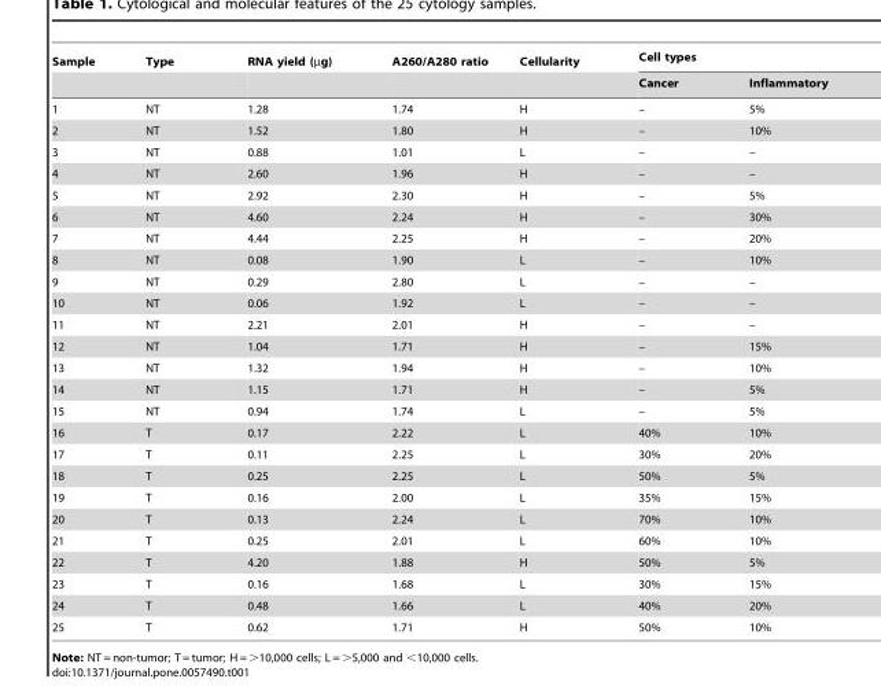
<table><thead><tr><td rowspan="2">Sample</td><td rowspan="2">Type</td><td rowspan="2">RNA yield (µg)</td><td rowspan="2">A260/A280 ratio</td><td rowspan="2">Cellularity</td><td colspan="2">Cell types</td></tr><tr><td>Cancer</td><td>Inflammatory</td></tr></thead><tbody><tr><td>1</td><td>NT</td><td>1.28</td><td>1.74</td><td>H</td><td>–</td><td>5%</td></tr><tr><td>2</td><td>NT</td><td>1.52</td><td>1.80</td><td>H</td><td>–</td><td>10%</td></tr><tr><td>3</td><td>NT</td><td>0.88</td><td>1.01</td><td>L</td><td>–</td><td>–</td></tr><tr><td>4</td><td>NT</td><td>2.60</td><td>1.96</td><td>H</td><td>–</td><td>–</td></tr><tr><td>5</td><td>NT</td><td>2.92</td><td>2.30</td><td>H</td><td>–</td><td>5%</td></tr><tr><td>6</td><td>NT</td><td>4.60</td><td>2.24</td><td>H</td><td>–</td><td>30%</td></tr><tr><td>7</td><td>NT</td><td>4.44</td><td>2.25</td><td>H</td><td>–</td><td>20%</td></tr><tr><td>8</td><td>NT</td><td>0.08</td><td>1.90</td><td>L</td><td>–</td><td>10%</td></tr><tr><td>9</td><td>NT</td><td>0.29</td><td>2.80</td><td>L</td><td>–</td><td>–</td></tr><tr><td>10</td><td>NT</td><td>0.06</td><td>1.92</td><td>L</td><td>–</td><td>–</td></tr><tr><td>11</td><td>NT</td><td>2.21</td><td>2.01</td><td>H</td><td>–</td><td>–</td></tr><tr><td>12</td><td>NT</td><td>1.04</td><td>1.71</td><td>H</td><td>–</td><td>15%</td></tr><tr><td>13</td><td>NT</td><td>1.32</td><td>1.94</td><td>H</td><td>–</td><td>10%</td></tr><tr><td>14</td><td>NT</td><td>1.15</td><td>1.71</td><td>H</td><td>–</td><td>5%</td></tr><tr><td>15</td><td>NT</td><td>0.94</td><td>1.74</td><td>L</td><td>–</td><td>5%</td></tr><tr><td>16</td><td>T</td><td>0.17</td><td>2.22</td><td>L</td><td>40%</td><td>10%</td></tr><tr><td>17</td><td>T</td><td>0.11</td><td>2.25</td><td>L</td><td>30%</td><td>20%</td></tr><tr><td>18</td><td>T</td><td>0.25</td><td>2.25</td><td>L</td><td>50%</td><td>5%</td></tr><tr><td>19</td><td>T</td><td>0.16</td><td>2.00</td><td>L</td><td>35%</td><td>15%</td></tr><tr><td>20</td><td>T</td><td>0.13</td><td>2.24</td><td>L</td><td>70%</td><td>10%</td></tr><tr><td>21</td><td>T</td><td>0.25</td><td>2.01</td><td>L</td><td>60%</td><td>10%</td></tr><tr><td>22</td><td>T</td><td>4.20</td><td>1.88</td><td>H</td><td>50%</td><td>5%</td></tr><tr><td>23</td><td>T</td><td>0.16</td><td>1.68</td><td>L</td><td>30%</td><td>15%</td></tr><tr><td>24</td><td>T</td><td>0.48</td><td>1.66</td><td>L</td><td>40%</td><td>20%</td></tr><tr><td>25</td><td>T</td><td>0.62</td><td>1.71</td><td>H</td><td>50%</td><td>10%</td></tr></tbody></table>